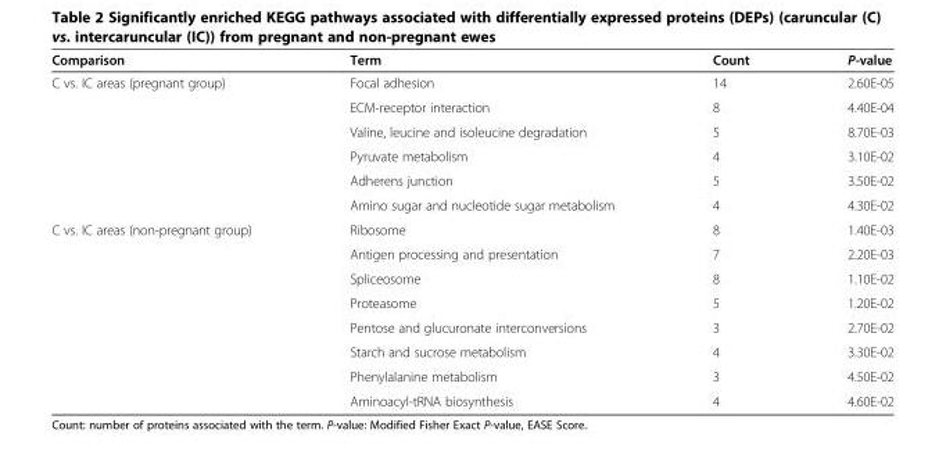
<table><thead><tr><td>Comparison</td><td>Term</td><td>Count</td><td>P-value</td></tr></thead><tbody><tr><td rowspan="6">C vs. IC areas (pregnant group)</td><td>Focal adhesion</td><td>14</td><td>2.60E-05</td></tr><tr><td>ECM-receptor interaction</td><td>8</td><td>4.40E-04</td></tr><tr><td>Valine, leucine and isoleucine degradation</td><td>5</td><td>8.70E-03</td></tr><tr><td>Pyruvate metabolism</td><td>4</td><td>3.10E-02</td></tr><tr><td>Adherens junction</td><td>5</td><td>3.50E-02</td></tr><tr><td>Amino sugar and nucleotide sugar metabolism</td><td>4</td><td>4.30E-02</td></tr><tr><td rowspan="8">C vs. IC areas (non-pregnant group)</td><td>Ribosome</td><td>8</td><td>1.40E-03</td></tr><tr><td>Antigen processing and presentation</td><td>7</td><td>2.20E-03</td></tr><tr><td>Spliceosome</td><td>8</td><td>1.10E-02</td></tr><tr><td>Proteasome</td><td>5</td><td>1.20E-02</td></tr><tr><td>Pentose and glucuronate interconversions</td><td>3</td><td>2.70E-02</td></tr><tr><td>Starch and sucrose metabolism</td><td>4</td><td>3.30E-02</td></tr><tr><td>Phenylalanine metabolism</td><td>3</td><td>4.50E-02</td></tr><tr><td>Aminoacyl-tRNA biosynthesis</td><td>4</td><td>4.60E-02</td></tr></tbody></table>